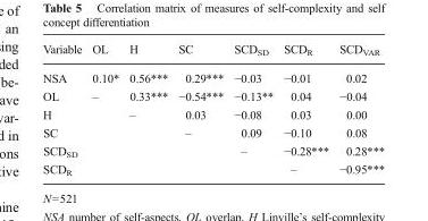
<table><thead><tr><td>Variable</td><td>OL</td><td>H</td><td>SC</td><td>SCD<sub>SD</sub></td><td>SCD<sub>R</sub></td><td>SCD<sub>VAR</sub></td></tr></thead><tbody><tr><td>NSA</td><td>0.10*</td><td>0.56***</td><td>0.29***</td><td>−0.03</td><td>−0.01</td><td>0.02</td></tr><tr><td>OL</td><td>–</td><td>0.33***</td><td>−0.54***</td><td>−0.13**</td><td>0.04</td><td>−0.04</td></tr><tr><td>H</td><td></td><td>–</td><td>0.03</td><td>−0.08</td><td>0.03</td><td>0.00</td></tr><tr><td>SC</td><td></td><td></td><td>–</td><td>0.09</td><td>−0.10</td><td>0.08</td></tr><tr><td>SCD<sub>SD</sub></td><td></td><td></td><td></td><td>–</td><td>−0.28***</td><td>0.28***</td></tr><tr><td>SCD<sub>R</sub></td><td></td><td></td><td></td><td></td><td>–</td><td>−0.95***</td></tr></tbody></table>